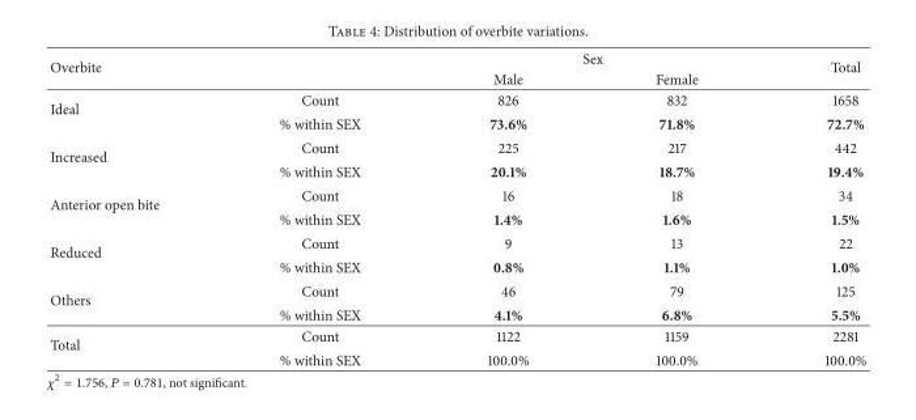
<table><thead><tr><td rowspan="2">Overbite</td><td rowspan="2"></td><td colspan="2">Sex</td><td rowspan="2">Total</td></tr><tr><td>Male</td><td>Female</td></tr></thead><tbody><tr><td rowspan="2">Ideal</td><td>Count</td><td>826</td><td>832</td><td>1658</td></tr><tr><td>% within SEX</td><td>73.6%</td><td>71.8%</td><td>72.7%</td></tr><tr><td rowspan="2">Increased</td><td>Count</td><td>225</td><td>217</td><td>442</td></tr><tr><td>% within SEX</td><td>20.1%</td><td>18.7%</td><td>19.4%</td></tr><tr><td rowspan="2">Anterior open bite</td><td>Count</td><td>16</td><td>18</td><td>34</td></tr><tr><td>% within SEX</td><td>1.4%</td><td>1.6%</td><td>1.5%</td></tr><tr><td rowspan="2">Reduced</td><td>Count</td><td>9</td><td>13</td><td>22</td></tr><tr><td>% within SEX</td><td>0.8%</td><td>1.1%</td><td>1.0%</td></tr><tr><td rowspan="2">Others</td><td>Count</td><td>46</td><td>79</td><td>125</td></tr><tr><td>% within SEX</td><td>4.1%</td><td>6.8%</td><td>5.5%</td></tr><tr><td rowspan="2">Total</td><td>Count</td><td>1122</td><td>1159</td><td>2281</td></tr><tr><td>% within SEX</td><td>100.0%</td><td>100.0%</td><td>100.0%</td></tr></tbody></table>